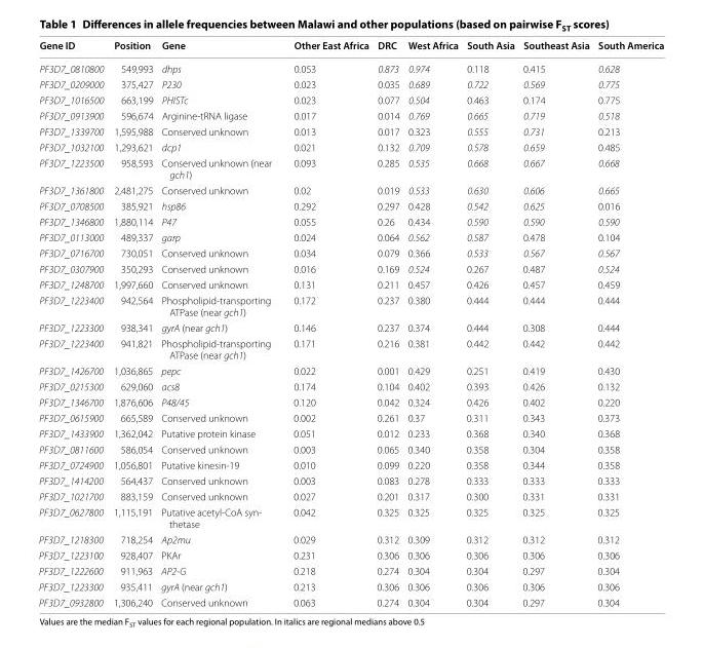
<table><thead><tr><td>Gene ID</td><td>Position</td><td>Gene</td><td>Other East Africa</td><td>DRC</td><td>West Africa</td><td>South Asia</td><td>Southeast Asia</td><td>South America</td></tr></thead><tbody><tr><td>PF3D7_0810800</td><td>549,993</td><td>dhps</td><td>0.053</td><td>0.873</td><td>0.974</td><td>0.118</td><td>0.415</td><td>0.628</td></tr><tr><td>PF3D7_0209000</td><td>375,427</td><td>P230</td><td>0.023</td><td>0.035</td><td>0.689</td><td>0.722</td><td>0.569</td><td>0.775</td></tr><tr><td>PF3D7_1016500</td><td>663,199</td><td>PHISTc</td><td>0.023</td><td>0.077</td><td>0.504</td><td>0.463</td><td>0.174</td><td>0.775</td></tr><tr><td>PF3D7_0913900</td><td>596,674</td><td>Arginine-tRNA ligase</td><td>0.017</td><td>0.014</td><td>0.769</td><td>0.665</td><td>0.719</td><td>0.518</td></tr><tr><td>PF3D7_1339700</td><td>1,595,988</td><td>Conserved unknown</td><td>0.013</td><td>0.017</td><td>0.323</td><td>0.555</td><td>0.731</td><td>0.213</td></tr><tr><td>PF3D7_1032100</td><td>1,293,621</td><td>dcp1</td><td>0.021</td><td>0.132</td><td>0.709</td><td>0.578</td><td>0.659</td><td>0.485</td></tr><tr><td>PF3D7_1223500</td><td>958,593</td><td>Conserved unknown (near gch1)</td><td>0.093</td><td>0.285</td><td>0.535</td><td>0.668</td><td>0.667</td><td>0.668</td></tr><tr><td>PF3D7_1361800</td><td>2,481,275</td><td>Conserved unknown</td><td>0.02</td><td>0.019</td><td>0.533</td><td>0.630</td><td>0.606</td><td>0.665</td></tr><tr><td>PF3D7_0708500</td><td>385,921</td><td>hsp86</td><td>0.292</td><td>0.297</td><td>0.428</td><td>0.542</td><td>0.625</td><td>0.016</td></tr><tr><td>PF3D7_1346800</td><td>1,880,114</td><td>P47</td><td>0.055</td><td>0.26</td><td>0.434</td><td>0.590</td><td>0.590</td><td>0.590</td></tr><tr><td>PF3D7_0113000</td><td>489,337</td><td>garp</td><td>0.024</td><td>0.064</td><td>0.562</td><td>0.587</td><td>0.478</td><td>0.104</td></tr><tr><td>PF3D7_0716700</td><td>730,051</td><td>Conserved unknown</td><td>0.034</td><td>0.079</td><td>0.366</td><td>0.533</td><td>0.567</td><td>0.567</td></tr><tr><td>PF3D7_0307900</td><td>350,293</td><td>Conserved unknown</td><td>0.016</td><td>0.169</td><td>0.524</td><td>0.267</td><td>0.487</td><td>0.524</td></tr><tr><td>PF3D7_1248700</td><td>1,997,660</td><td>Conserved unknown</td><td>0.131</td><td>0.211</td><td>0.457</td><td>0.426</td><td>0.457</td><td>0.459</td></tr><tr><td>PF3D7_1223400</td><td>942,564</td><td>Phospholipid-transporting ATPase (near gch1)</td><td>0.172</td><td>0.237</td><td>0.380</td><td>0.444</td><td>0.444</td><td>0.444</td></tr><tr><td>PF3D7_1223300</td><td>938,341</td><td>gyrA (near gch1)</td><td>0.146</td><td>0.237</td><td>0.374</td><td>0.444</td><td>0.308</td><td>0.444</td></tr><tr><td>PF3D7_1223400</td><td>941,821</td><td>Phospholipid-transporting ATPase (near gch1)</td><td>0.171</td><td>0.216</td><td>0.381</td><td>0.442</td><td>0.442</td><td>0.442</td></tr><tr><td>PF3D7_1426700</td><td>1,036,865</td><td>pepc</td><td>0.022</td><td>0.001</td><td>0.429</td><td>0.251</td><td>0.419</td><td>0.430</td></tr><tr><td>PF3D7_0215300</td><td>629,060</td><td>acs8</td><td>0.174</td><td>0.104</td><td>0.402</td><td>0.393</td><td>0.426</td><td>0.132</td></tr><tr><td>PF3D7_1346700</td><td>1,876,606</td><td>P48/45</td><td>0.120</td><td>0.042</td><td>0.324</td><td>0.426</td><td>0.402</td><td>0.220</td></tr><tr><td>PF3D7_0615900</td><td>665,589</td><td>Conserved unknown</td><td>0.002</td><td>0.261</td><td>0.37</td><td>0.311</td><td>0.343</td><td>0.373</td></tr><tr><td>PF3D7_1433900</td><td>1,362,042</td><td>Putative protein kinase</td><td>0.051</td><td>0.012</td><td>0.233</td><td>0.368</td><td>0.340</td><td>0.368</td></tr><tr><td>PF3D7_0811600</td><td>586,054</td><td>Conserved unknown</td><td>0.003</td><td>0.065</td><td>0.340</td><td>0.358</td><td>0.304</td><td>0.358</td></tr><tr><td>PF3D7_0724900</td><td>1,056,801</td><td>Putative kinesin-19</td><td>0.010</td><td>0.099</td><td>0.220</td><td>0.358</td><td>0.344</td><td>0.358</td></tr><tr><td>PF3D7_1414200</td><td>564,437</td><td>Conserved unknown</td><td>0.003</td><td>0.083</td><td>0.278</td><td>0.333</td><td>0.333</td><td>0.333</td></tr><tr><td>PF3D7_1021700</td><td>883,159</td><td>Conserved unknown</td><td>0.027</td><td>0.201</td><td>0.317</td><td>0.300</td><td>0.331</td><td>0.331</td></tr><tr><td>PF3D7_0627800</td><td>1,115,191</td><td>Putative acetyl-CoA syn- thetase</td><td>0.042</td><td>0.325</td><td>0.325</td><td>0.325</td><td>0.325</td><td>0.325</td></tr><tr><td>PF3D7_1218300</td><td>718,254</td><td>Ap2mu</td><td>0.029</td><td>0.312</td><td>0.309</td><td>0.312</td><td>0.312</td><td>0.312</td></tr><tr><td>PF3D7_1223100</td><td>928,407</td><td>PKAr</td><td>0.231</td><td>0.306</td><td>0.306</td><td>0.306</td><td>0.306</td><td>0.306</td></tr><tr><td>PF3D7_1222600</td><td>911,963</td><td>AP2-G</td><td>0.218</td><td>0.274</td><td>0.304</td><td>0.304</td><td>0.297</td><td>0.304</td></tr><tr><td>PF3D7_1223300</td><td>935,411</td><td>gyrA (near gch1)</td><td>0.213</td><td>0.306</td><td>0.306</td><td>0.306</td><td>0.306</td><td>0.306</td></tr><tr><td>PF3D7_0932800</td><td>1,306,240</td><td>Conserved unknown</td><td>0.063</td><td>0.274</td><td>0.304</td><td>0.304</td><td>0.297</td><td>0.304</td></tr></tbody></table>